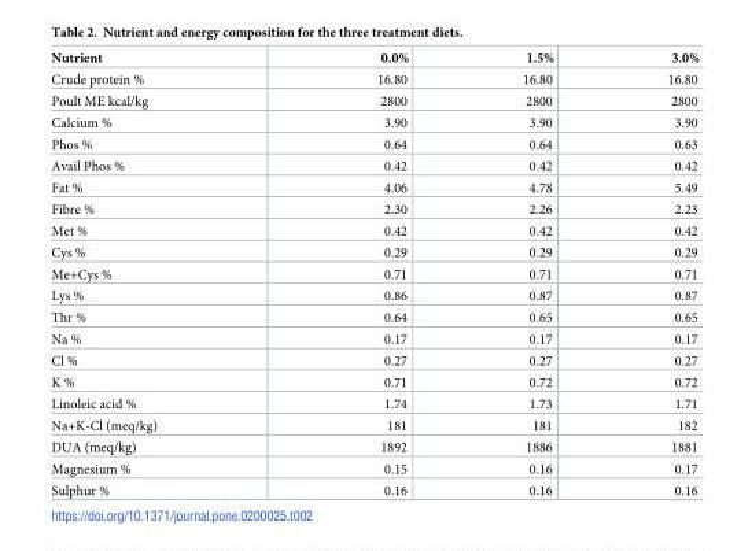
<table><thead><tr><td>Nutrient</td><td>0.0%</td><td>1.5%</td><td>3.0%</td></tr></thead><tbody><tr><td>Crude protein %</td><td>16.80</td><td>16.80</td><td>16.80</td></tr><tr><td>Poult ME kcal/kg</td><td>2800</td><td>2800</td><td>2800</td></tr><tr><td>Calcium %</td><td>3.90</td><td>3.90</td><td>3.90</td></tr><tr><td>Phos %</td><td>0.64</td><td>0.64</td><td>0.63</td></tr><tr><td>Avail Phos %</td><td>0.42</td><td>0.42</td><td>0.42</td></tr><tr><td>Fat %</td><td>4.06</td><td>4.78</td><td>5.49</td></tr><tr><td>Fibre %</td><td>2.30</td><td>2.26</td><td>2.23</td></tr><tr><td>Met %</td><td>0.42</td><td>0.42</td><td>0.42</td></tr><tr><td>Cys %</td><td>0.29</td><td>0.29</td><td>0.29</td></tr><tr><td>Me+Cys %</td><td>0.71</td><td>0.71</td><td>0.71</td></tr><tr><td>Lys %</td><td>0.86</td><td>0.87</td><td>0.87</td></tr><tr><td>Thr %</td><td>0.64</td><td>0.65</td><td>0.65</td></tr><tr><td>Na %</td><td>0.17</td><td>0.17</td><td>0.17</td></tr><tr><td>Cl %</td><td>0.27</td><td>0.27</td><td>0.27</td></tr><tr><td>K %</td><td>0.71</td><td>0.72</td><td>0.72</td></tr><tr><td>Linoleic acid %</td><td>1.74</td><td>1.73</td><td>1.71</td></tr><tr><td>Na+K-Cl (meq/kg)</td><td>181</td><td>181</td><td>182</td></tr><tr><td>DUA (meq/kg)</td><td>1892</td><td>1886</td><td>1881</td></tr><tr><td>Magnesium %</td><td>0.15</td><td>0.16</td><td>0.17</td></tr><tr><td>Sulphur %</td><td>0.16</td><td>0.16</td><td>0.16</td></tr></tbody></table>